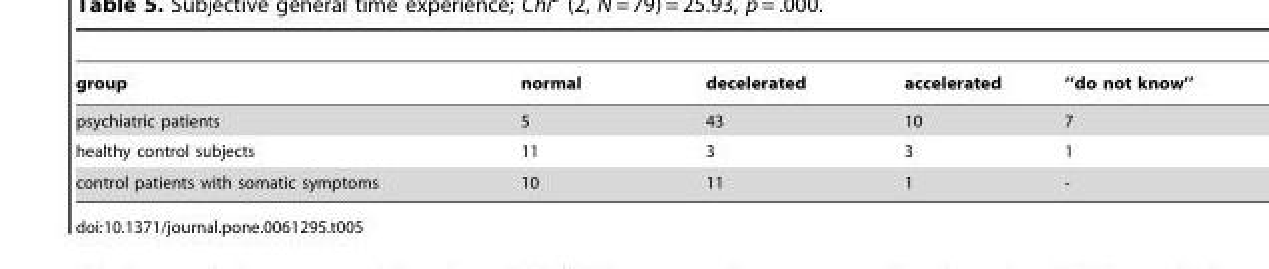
<table><thead><tr><td>group</td><td>normal</td><td>decelerated</td><td>accelerated</td><td>‘‘do not know’’</td></tr></thead><tbody><tr><td>psychiatric patients</td><td>5</td><td>43</td><td>10</td><td>7</td></tr><tr><td>healthy control subjects</td><td>11</td><td>3</td><td>3</td><td>1</td></tr><tr><td>control patients with somatic symptoms</td><td>10</td><td>11</td><td>1</td><td>-</td></tr></tbody></table>